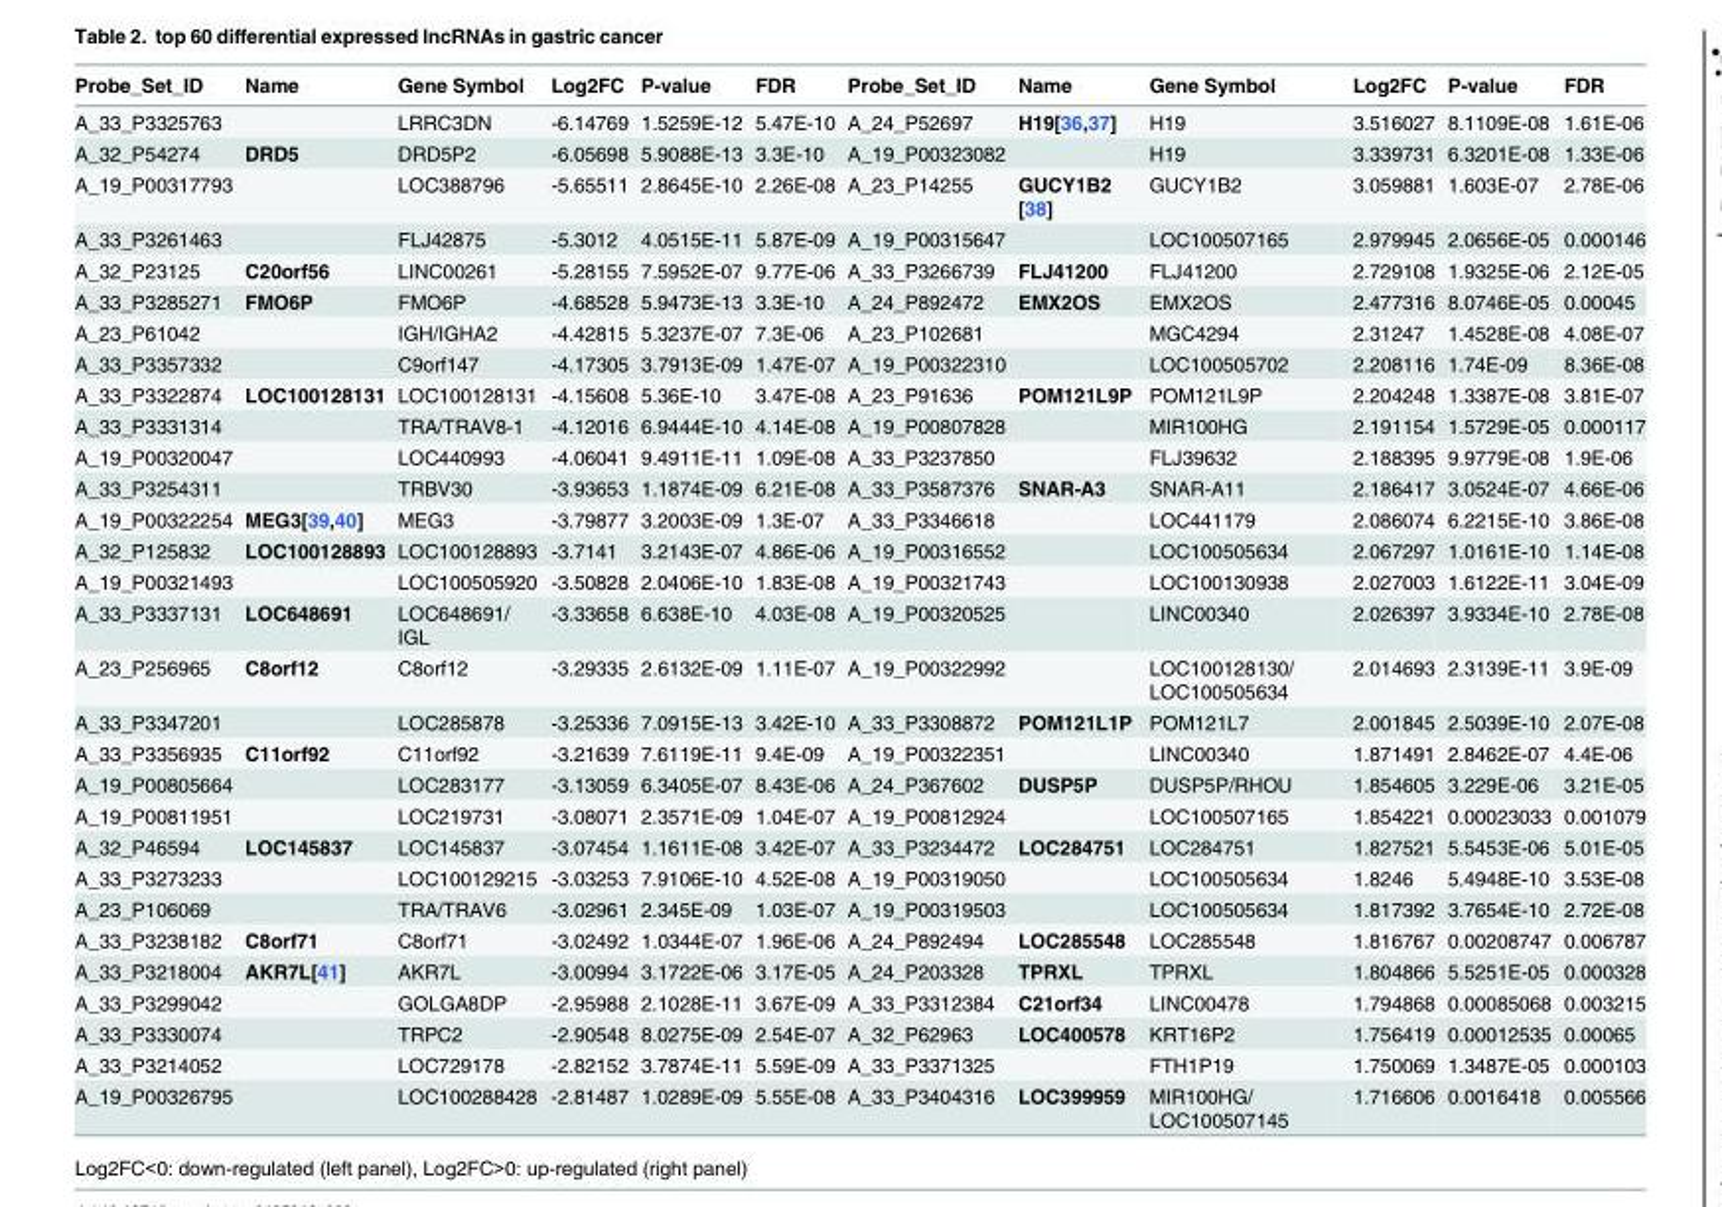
<table><thead><tr><td>Probe_Set_ID</td><td>Name</td><td>Gene Symbol</td><td>Log2FC</td><td>P-value</td><td>FDR</td><td>Probe_Set_ID</td><td>Name</td><td>Gene Symbol</td><td>Log2FC</td><td>P-value</td><td>FDR</td></tr></thead><tbody><tr><td>A_33_P3325763</td><td></td><td>LRRC3DN</td><td>-6.14769</td><td>1.5259E-12</td><td>5.47E-10</td><td>A_24_P52697</td><td>H19[36,37]</td><td>H19</td><td>3.516027</td><td>8.1109E-08</td><td>1.61E-06</td></tr><tr><td>A_32_P54274</td><td>DRD5</td><td>DRD5P2</td><td>-6.05698</td><td>5.9088E-13</td><td>3.3E-10</td><td>A_19_P00323082</td><td></td><td>H19</td><td>3.339731</td><td>6.3201E-08</td><td>1.33E-06</td></tr><tr><td>A_19_P00317793</td><td></td><td>LOC388796</td><td>-5.65511</td><td>2.8645E-10</td><td>2.26E-08</td><td>A_23_P14255</td><td>GUCY1B2 [38]</td><td>GUCY1B2</td><td>3.059881</td><td>1.603E-07</td><td>2.78E-06</td></tr><tr><td>A_33_P3261463</td><td></td><td>FLJ42875</td><td>-5.3012</td><td>4.0515E-11</td><td>5.87E-09</td><td>A_19_P00315647</td><td></td><td>LOC100507165</td><td>2.979945</td><td>2.0656E-05</td><td>0.000146</td></tr><tr><td>A_32_P23125</td><td>C20orf56</td><td>LINC00261</td><td>-5.28155</td><td>7.5952E-07</td><td>9.77E-06</td><td>A_33_P3266739</td><td>FLJ41200</td><td>FLJ41200</td><td>2.729108</td><td>1.9325E-06</td><td>2.12E-05</td></tr><tr><td>A_33_P3285271</td><td>FMO6P</td><td>FMO6P</td><td>-4.68528</td><td>5.9473E-13</td><td>3.3E-10</td><td>A_24_P892472</td><td>EMX2OS</td><td>EMX2OS</td><td>2.477316</td><td>8.0746E-05</td><td>0.00045</td></tr><tr><td>A_23_P61042</td><td></td><td>IGH/IGHA2</td><td>-4.42815</td><td>5.3237E-07</td><td>7.3E-06</td><td>A_23_P102681</td><td></td><td>MGC4294</td><td>2.31247</td><td>1.4528E-08</td><td>4.08E-07</td></tr><tr><td>A_33_P3357332</td><td></td><td>C9orf147</td><td>-4.17305</td><td>3.7913E-09</td><td>1.47E-07</td><td>A_19_P00322310</td><td></td><td>LOC100505702</td><td>2.208116</td><td>1.74E-09</td><td>8.36E-08</td></tr><tr><td>A_33_P3322874</td><td>LOC100128131</td><td>LOC100128131</td><td>-4.15608</td><td>5.36E-10</td><td>3.47E-08</td><td>A_23_P91636</td><td>POM121L9P</td><td>POM121L9P</td><td>2.204248</td><td>1.3387E-08</td><td>3.81E-07</td></tr><tr><td>A_33_P3331314</td><td></td><td>TRA/TRAV8-1</td><td>-4.12016</td><td>6.9444E-10</td><td>4.14E-08</td><td>A_19_P00807828</td><td></td><td>MIR100HG</td><td>2.191154</td><td>1.5729E-05</td><td>0.000117</td></tr><tr><td>A_19_P00320047</td><td></td><td>LOC440993</td><td>-4.06041</td><td>9.4911E-11</td><td>1.09E-08</td><td>A_33_P3237850</td><td></td><td>FLJ39632</td><td>2.188395</td><td>9.9779E-08</td><td>1.9E-06</td></tr><tr><td>A_33_P3254311</td><td></td><td>TRBV30</td><td>-3.93653</td><td>1.1874E-09</td><td>6.21E-08</td><td>A_33_P3587376</td><td>SNAR-A3</td><td>SNAR-A11</td><td>2.186417</td><td>3.0524E-07</td><td>4.66E-06</td></tr><tr><td>A_19_P00322254</td><td>MEG3[39,40]</td><td>MEG3</td><td>-3.79877</td><td>3.2003E-09</td><td>1.3E-07</td><td>A_33_P3346618</td><td></td><td>LOC441179</td><td>2.086074</td><td>6.2215E-10</td><td>3.86E-08</td></tr><tr><td>A_32_P125832</td><td>LOC100128893</td><td>LOC100128893</td><td>-3.7141</td><td>3.2143E-07</td><td>4.86E-06</td><td>A_19_P00316552</td><td></td><td>LOC100505634</td><td>2.067297</td><td>1.0161E-10</td><td>1.14E-08</td></tr><tr><td>A_19_P00321493</td><td></td><td>LOC100505920</td><td>-3.50828</td><td>2.0406E-10</td><td>1.83E-08</td><td>A_19_P00321743</td><td></td><td>LOC100130938</td><td>2.027003</td><td>1.6122E-11</td><td>3.04E-09</td></tr><tr><td>A_33_P3337131</td><td>LOC648691</td><td>LOC648691/ IGL</td><td>-3.33658</td><td>6.638E-10</td><td>4.03E-08</td><td>A_19_P00320525</td><td></td><td>LINC00340</td><td>2.026397</td><td>3.9334E-10</td><td>2.78E-08</td></tr><tr><td>A_23_P256965</td><td>C8orf12</td><td>C8orf12</td><td>-3.29335</td><td>2.6132E-09</td><td>1.11E-07</td><td>A_19_P00322992</td><td></td><td>LOC100128130/ LOC100505634</td><td>2.014693</td><td>2.3139E-11</td><td>3.9E-09</td></tr><tr><td>A_33_P3347201</td><td></td><td>LOC285878</td><td>-3.25336</td><td>7.0915E-13</td><td>3.42E-10</td><td>A_33_P3308872</td><td>POM121L1P</td><td>POM121L7</td><td>2.001845</td><td>2.5039E-10</td><td>2.07E-08</td></tr><tr><td>A_33_P3356935</td><td>C11orf92</td><td>C11orf92</td><td>-3.21639</td><td>7.6119E-11</td><td>9.4E-09</td><td>A_19_P00322351</td><td></td><td>LINC00340</td><td>1.871491</td><td>2.8462E-07</td><td>4.4E-06</td></tr><tr><td>A_19_P00805664</td><td></td><td>LOC283177</td><td>-3.13059</td><td>6.3405E-07</td><td>8.43E-06</td><td>A_24_P367602</td><td>DUSP5P</td><td>DUSP5P/RHOU</td><td>1.854605</td><td>3.229E-06</td><td>3.21E-05</td></tr><tr><td>A_19_P00811951</td><td></td><td>LOC219731</td><td>-3.08071</td><td>2.3571E-09</td><td>1.04E-07</td><td>A_19_P00812924</td><td></td><td>LOC100507165</td><td>1.854221</td><td>0.00023033</td><td>0.001079</td></tr><tr><td>A_32_P46594</td><td>LOC145837</td><td>LOC145837</td><td>-3.07454</td><td>1.1611E-08</td><td>3.42E-07</td><td>A_33_P3234472</td><td>LOC284751</td><td>LOC284751</td><td>1.827521</td><td>5.5453E-06</td><td>5.01E-05</td></tr><tr><td>A_33_P3273233</td><td></td><td>LOC100129215</td><td>-3.03253</td><td>7.9106E-10</td><td>4.52E-08</td><td>A_19_P00319050</td><td></td><td>LOC100505634</td><td>1.8246</td><td>5.4948E-10</td><td>3.53E-08</td></tr><tr><td>A_23_P106069</td><td></td><td>TRA/TRAV6</td><td>-3.02961</td><td>2.345E-09</td><td>1.03E-07</td><td>A_19_P00319503</td><td></td><td>LOC100505634</td><td>1.817392</td><td>3.7654E-10</td><td>2.72E-08</td></tr><tr><td>A_33_P3238182</td><td>C8orf71</td><td>C8orf71</td><td>-3.02492</td><td>1.0344E-07</td><td>1.96E-06</td><td>A_24_P892494</td><td>LOC285548</td><td>LOC285548</td><td>1.816767</td><td>0.00208747</td><td>0.006787</td></tr><tr><td>A_33_P3218004</td><td>AKR7L[41]</td><td>AKR7L</td><td>-3.00994</td><td>3.1722E-06</td><td>3.17E-05</td><td>A_24_P203328</td><td>TPRXL</td><td>TPRXL</td><td>1.804866</td><td>5.5251E-05</td><td>0.000328</td></tr><tr><td>A_33_P3299042</td><td></td><td>GOLGA8DP</td><td>-2.95988</td><td>2.1028E-11</td><td>3.67E-09</td><td>A_33_P3312384</td><td>C21orf34</td><td>LINC00478</td><td>1.794868</td><td>0.00085068</td><td>0.003215</td></tr><tr><td>A_33_P3330074</td><td></td><td>TRPC2</td><td>-2.90548</td><td>8.0275E-09</td><td>2.54E-07</td><td>A_32_P62963</td><td>LOC400578</td><td>KRT16P2</td><td>1.756419</td><td>0.00012535</td><td>0.00065</td></tr><tr><td>A_33_P3214052</td><td></td><td>LOC729178</td><td>-2.82152</td><td>3.7874E-11</td><td>5.59E-09</td><td>A_33_P3371325</td><td></td><td>FTH1P19</td><td>1.750069</td><td>1.3487E-05</td><td>0.000103</td></tr><tr><td>A_19_P00326795</td><td></td><td>LOC100288428</td><td>-2.81487</td><td>1.0289E-09</td><td>5.55E-08</td><td>A_33_P3404316</td><td>LOC399959</td><td>MIR100HG/ LOC100507145</td><td>1.716606</td><td>0.0016418</td><td>0.005566</td></tr></tbody></table>